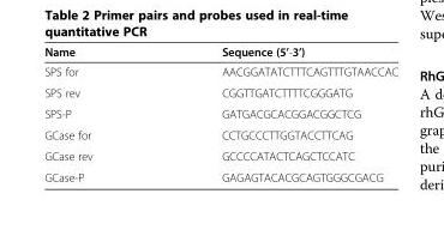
<table><thead><tr><td>Name</td><td>Sequence (5’-3’)</td></tr></thead><tbody><tr><td>SPS for</td><td>AACGGATATCTTTCAGTTTGTAACCAC</td></tr><tr><td>SPS rev</td><td>CGGTTGATCTTTTCGGGATG</td></tr><tr><td>SPS-P</td><td>GATGACGCACGGACGGCTCG</td></tr><tr><td>GCase for</td><td>CCTGCCCTTGGTACCTTCAG</td></tr><tr><td>GCase rev</td><td>GCCCCATACTCAGCTCCATC</td></tr><tr><td>GCase-P</td><td>GAGAGTACACGCAGTGGGCGACG</td></tr></tbody></table>